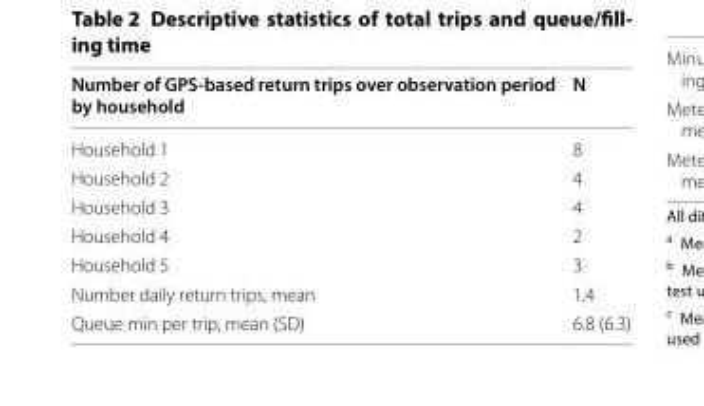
<table><thead><tr><td>Number of GPS‑based return trips over observation period by household</td><td>N</td></tr></thead><tbody><tr><td>Household 1</td><td>8</td></tr><tr><td>Household 2</td><td>4</td></tr><tr><td>Household 3</td><td>4</td></tr><tr><td>Household 4</td><td>2</td></tr><tr><td>Household 5</td><td>3</td></tr><tr><td>Number daily return trips, mean</td><td>1.4</td></tr><tr><td>Queue min per trip, mean (SD)</td><td>6.8 (6.3)</td></tr></tbody></table>